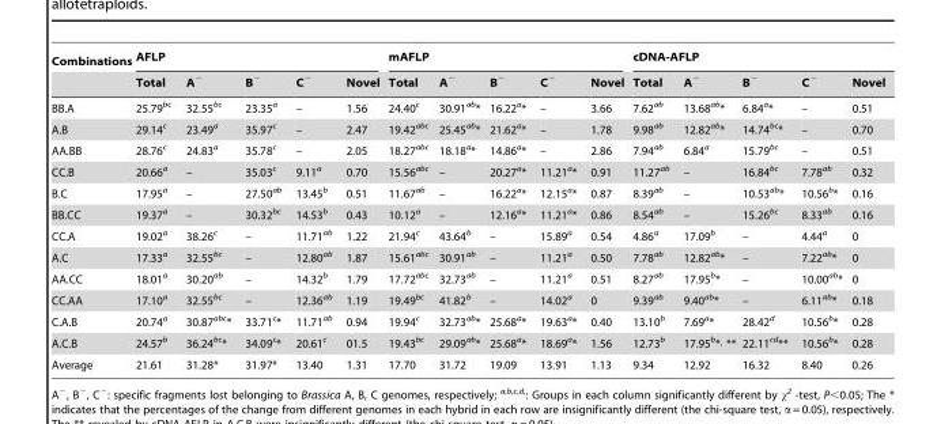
<table><thead><tr><td rowspan="2">Combinations</td><td colspan="5">AFLP</td><td colspan="5">mAFLP</td><td colspan="5">cDNA-AFLP</td></tr><tr><td>Total</td><td>A<sup>−</sup></td><td>B<sup>−</sup></td><td>C<sup>−</sup></td><td>Novel</td><td>Total</td><td>A<sup>−</sup></td><td>B<sup>−</sup></td><td>C<sup>−</sup></td><td>Novel</td><td>Total</td><td>A<sup>−</sup></td><td>B<sup>−</sup></td><td>C<sup>−</sup></td><td>Novel</td></tr></thead><tbody><tr><td>BB.A</td><td>25.79<sup>bc</sup></td><td>32.55<sup>bc</sup></td><td>23.35<sup>a</sup></td><td>–</td><td>1.56</td><td>24.40<sup>c</sup></td><td>30.91<sup>ab</sup>*</td><td>16.22<sup>a</sup>*</td><td>–</td><td>3.66</td><td>7.62<sup>ab</sup></td><td>13.68<sup>ab</sup>*</td><td>6.84<sup>a</sup>*</td><td>–</td><td>0.51</td></tr><tr><td>A.B</td><td>29.14<sup>c</sup></td><td>23.49<sup>a</sup></td><td>35.97<sup>c</sup></td><td>–</td><td>2.47</td><td>19.42<sup>abc</sup></td><td>25.45<sup>ab</sup>*</td><td>21.62<sup>a</sup>*</td><td>–</td><td>1.78</td><td>9.98<sup>ab</sup></td><td>12.82<sup>ab</sup>*</td><td>14.74<sup>bc</sup>*</td><td>–</td><td>0.70</td></tr><tr><td>AA.BB</td><td>28.76<sup>c</sup></td><td>24.83<sup>a</sup></td><td>35.78<sup>c</sup></td><td>–</td><td>2.05</td><td>18.27<sup>abc</sup></td><td>18.18<sup>a</sup>*</td><td>14.86<sup>a</sup>*</td><td>–</td><td>2.86</td><td>7.94<sup>ab</sup></td><td>6.84<sup>a</sup></td><td>15.79<sup>bc</sup></td><td>–</td><td>0.51</td></tr><tr><td>CC.B</td><td>20.66<sup>a</sup></td><td>–</td><td>35.03<sup>c</sup></td><td>9.11<sup>a</sup></td><td>0.70</td><td>15.56<sup>abc</sup></td><td>–</td><td>20.27<sup>a</sup>*</td><td>11.21<sup>a</sup>*</td><td>0.91</td><td>11.27<sup>ab</sup></td><td>–</td><td>16.84<sup>bc</sup></td><td>7.78<sup>ab</sup></td><td>0.32</td></tr><tr><td>B.C</td><td>17.95<sup>a</sup></td><td>–</td><td>27.50<sup>ab</sup></td><td>13.45<sup>b</sup></td><td>0.51</td><td>11.67<sup>ab</sup></td><td>–</td><td>16.22<sup>a</sup>*</td><td>12.15<sup>a</sup>*</td><td>0.87</td><td>8.39<sup>ab</sup></td><td>–</td><td>10.53<sup>ab</sup>*</td><td>10.56<sup>b</sup>*</td><td>0.16</td></tr><tr><td>BB.CC</td><td>19.37<sup>a</sup></td><td>–</td><td>30.32<sup>bc</sup></td><td>14.53<sup>b</sup></td><td>0.43</td><td>10.12<sup>a</sup></td><td>–</td><td>12.16<sup>a</sup>*</td><td>11.21<sup>a</sup>*</td><td>0.86</td><td>8.54<sup>ab</sup></td><td>–</td><td>15.26<sup>bc</sup></td><td>8.33<sup>ab</sup></td><td>0.16</td></tr><tr><td>CC.A</td><td>19.02<sup>a</sup></td><td>38.26<sup>c</sup></td><td>–</td><td>11.71<sup>ab</sup></td><td>1.22</td><td>21.94<sup>c</sup></td><td>43.64<sup>b</sup></td><td>–</td><td>15.89<sup>a</sup></td><td>0.54</td><td>4.86<sup>a</sup></td><td>17.09<sup>b</sup></td><td>–</td><td>4.44<sup>a</sup></td><td>0</td></tr><tr><td>A.C</td><td>17.33<sup>a</sup></td><td>32.55<sup>bc</sup></td><td>–</td><td>12.80<sup>ab</sup></td><td>1.87</td><td>15.61<sup>abc</sup></td><td>30.91<sup>ab</sup></td><td>–</td><td>11.21<sup>a</sup></td><td>0.50</td><td>7.78<sup>ab</sup></td><td>12.82<sup>ab</sup>*</td><td>–</td><td>7.22<sup>ab</sup>*</td><td>0</td></tr><tr><td>AA.CC</td><td>18.01<sup>a</sup></td><td>30.20<sup>ab</sup></td><td>–</td><td>14.32<sup>b</sup></td><td>1.79</td><td>17.72<sup>abc</sup></td><td>32.73<sup>ab</sup></td><td>–</td><td>11.21<sup>a</sup></td><td>0.51</td><td>8.27<sup>ab</sup></td><td>17.95<sup>b</sup>*</td><td>–</td><td>10.00<sup>ab</sup>*</td><td>0</td></tr><tr><td>CC.AA</td><td>17.10<sup>a</sup></td><td>32.55<sup>bc</sup></td><td>–</td><td>12.36<sup>ab</sup></td><td>1.19</td><td>19.49<sup>bc</sup></td><td>41.82<sup>b</sup></td><td>–</td><td>14.02<sup>a</sup></td><td>0</td><td>9.39<sup>ab</sup></td><td>9.40<sup>ab</sup>*</td><td>–</td><td>6.11<sup>ab</sup>*</td><td>0.18</td></tr><tr><td>C.A.B</td><td>20.74<sup>a</sup></td><td>30.87<sup>abc</sup>*</td><td>33.71<sup>c</sup>*</td><td>11.71<sup>ab</sup></td><td>0.94</td><td>19.94<sup>c</sup></td><td>32.73<sup>ab</sup>*</td><td>25.68<sup>a</sup>*</td><td>19.63<sup>a</sup>*</td><td>0.40</td><td>13.10<sup>b</sup></td><td>7.69<sup>a</sup>*</td><td>28.42<sup>d</sup></td><td>10.56<sup>b</sup>*</td><td>0.28</td></tr><tr><td>A.C.B</td><td>24.57<sup>b</sup></td><td>36.24<sup>bc</sup>*</td><td>34.09<sup>c</sup>*</td><td>20.61<sup>c</sup></td><td>01.5</td><td>19.43<sup>bc</sup></td><td>29.09<sup>ab</sup>*</td><td>25.68<sup>a</sup>*</td><td>18.69<sup>a</sup>*</td><td>1.56</td><td>12.73<sup>b</sup></td><td>17.95<sup>b</sup>*<sub>’</sub> **</td><td>22.11<sup>cd</sup>**</td><td>10.56<sup>b</sup>*</td><td>0.28</td></tr><tr><td>Average</td><td>21.61</td><td>31.28*</td><td>31.97*</td><td>13.40</td><td>1.31</td><td>17.70</td><td>31.72</td><td>19.09</td><td>13.91</td><td>1.13</td><td>9.34</td><td>12.92</td><td>16.32</td><td>8.40</td><td>0.26</td></tr></tbody></table>